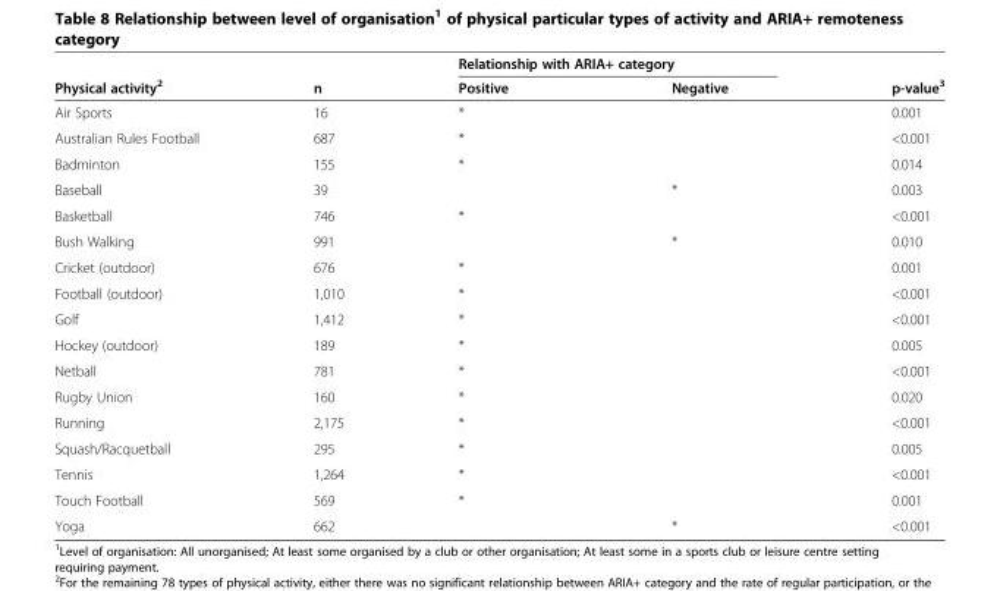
<table><thead><tr><td rowspan="2">Physical activity<sup>2</sup></td><td rowspan="2">n</td><td colspan="2">Relationship with ARIA+ category</td><td rowspan="2">p-value<sup>3</sup></td></tr><tr><td>Positive</td><td>Negative</td></tr></thead><tbody><tr><td>Air Sports</td><td>16</td><td>*</td><td></td><td>0.001</td></tr><tr><td>Australian Rules Football</td><td>687</td><td>*</td><td></td><td>&lt;0.001</td></tr><tr><td>Badminton</td><td>155</td><td>*</td><td></td><td>0.014</td></tr><tr><td>Baseball</td><td>39</td><td></td><td>*</td><td>0.003</td></tr><tr><td>Basketball</td><td>746</td><td>*</td><td></td><td>&lt;0.001</td></tr><tr><td>Bush Walking</td><td>991</td><td></td><td>*</td><td>0.010</td></tr><tr><td>Cricket (outdoor)</td><td>676</td><td>*</td><td></td><td>0.001</td></tr><tr><td>Football (outdoor)</td><td>1,010</td><td>*</td><td></td><td>&lt;0.001</td></tr><tr><td>Golf</td><td>1,412</td><td>*</td><td></td><td>&lt;0.001</td></tr><tr><td>Hockey (outdoor)</td><td>189</td><td>*</td><td></td><td>0.005</td></tr><tr><td>Netball</td><td>781</td><td>*</td><td></td><td>&lt;0.001</td></tr><tr><td>Rugby Union</td><td>160</td><td>*</td><td></td><td>0.020</td></tr><tr><td>Running</td><td>2,175</td><td>*</td><td></td><td>&lt;0.001</td></tr><tr><td>Squash/Racquetball</td><td>295</td><td>*</td><td></td><td>0.005</td></tr><tr><td>Tennis</td><td>1,264</td><td>*</td><td></td><td>&lt;0.001</td></tr><tr><td>Touch Football</td><td>569</td><td>*</td><td></td><td>0.001</td></tr><tr><td>Yoga</td><td>662</td><td></td><td>*</td><td>&lt;0.001</td></tr></tbody></table>